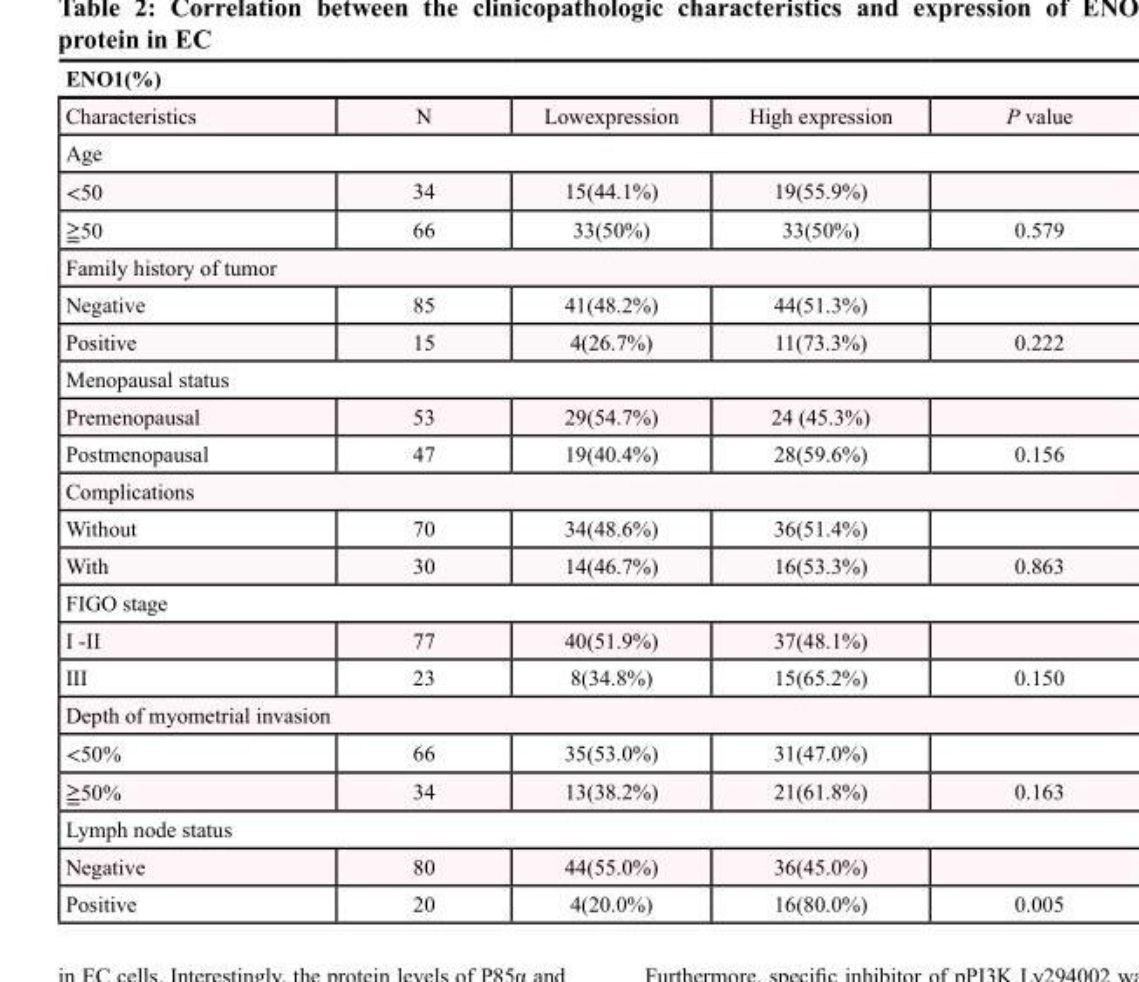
<table><thead><tr><td colspan="5">ENO1(%)</td></tr><tr><td>Characteristics</td><td>N</td><td>Lowexpression</td><td>High expression</td><td>P value</td></tr></thead><tbody><tr><td colspan="5">Age</td></tr><tr><td>&lt;50</td><td>34</td><td>15(44.1%)</td><td>19(55.9%)</td><td></td></tr><tr><td>≧50</td><td>66</td><td>33(50%)</td><td>33(50%)</td><td>0.579</td></tr><tr><td colspan="5">Family history of tumor</td></tr><tr><td>Negative</td><td>85</td><td>41(48.2%)</td><td>44(51.3%)</td><td></td></tr><tr><td>Positive</td><td>15</td><td>4(26.7%)</td><td>11(73.3%)</td><td>0.222</td></tr><tr><td colspan="5">Menopausal status</td></tr><tr><td>Premenopausal</td><td>53</td><td>29(54.7%)</td><td>24 (45.3%)</td><td></td></tr><tr><td>Postmenopausal</td><td>47</td><td>19(40.4%)</td><td>28(59.6%)</td><td>0.156</td></tr><tr><td colspan="5">Complications</td></tr><tr><td>Without</td><td>70</td><td>34(48.6%)</td><td>36(51.4%)</td><td></td></tr><tr><td>With</td><td>30</td><td>14(46.7%)</td><td>16(53.3%)</td><td>0.863</td></tr><tr><td colspan="5">FIGO stage</td></tr><tr><td>I -II</td><td>77</td><td>40(51.9%)</td><td>37(48.1%)</td><td></td></tr><tr><td>III</td><td>23</td><td>8(34.8%)</td><td>15(65.2%)</td><td>0.150</td></tr><tr><td colspan="5">Depth of myometrial invasion</td></tr><tr><td>&lt;50%</td><td>66</td><td>35(53.0%)</td><td>31(47.0%)</td><td></td></tr><tr><td>≧50%</td><td>34</td><td>13(38.2%)</td><td>21(61.8%)</td><td>0.163</td></tr><tr><td colspan="5">Lymph node status</td></tr><tr><td>Negative</td><td>80</td><td>44(55.0%)</td><td>36(45.0%)</td><td></td></tr><tr><td>Positive</td><td>20</td><td>4(20.0%)</td><td>16(80.0%)</td><td>0.005</td></tr></tbody></table>